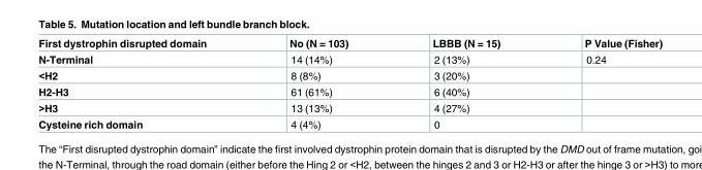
<table><thead><tr><td>First dystrophin disrupted domain</td><td>No (N = 103)</td><td>LBBB (N = 15)</td><td>P Value (Fisher)</td></tr></thead><tbody><tr><td>N-Terminal</td><td>14 (14%)</td><td>2 (13%)</td><td>0.24</td></tr><tr><td>&lt;H2</td><td>8 (8%)</td><td>3 (20%)</td><td></td></tr><tr><td>H2-H3</td><td>61 (61%)</td><td>6 (40%)</td><td></td></tr><tr><td>&gt;H3</td><td>13 (13%)</td><td>4 (27%)</td><td></td></tr><tr><td>Cysteine rich domain</td><td>4 (4%)</td><td>0</td><td></td></tr></tbody></table>